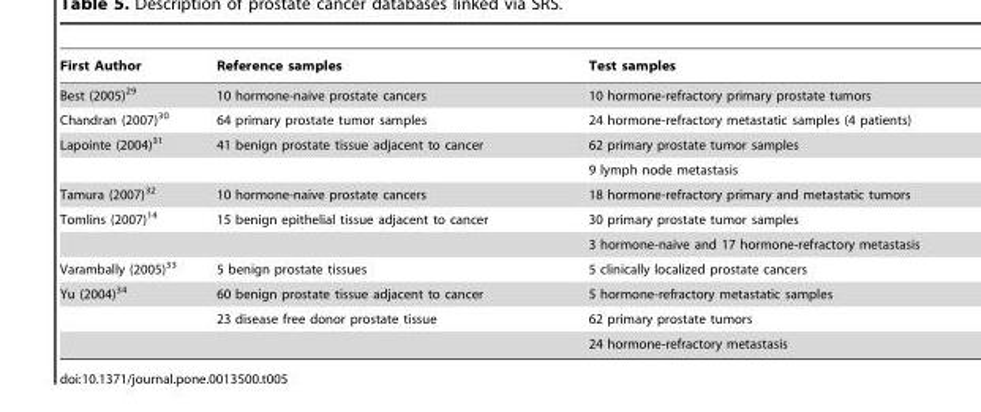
<table><thead><tr><td>First Author</td><td>Reference samples</td><td>Test samples</td></tr></thead><tbody><tr><td>Best (2005)<sup>29</sup></td><td>10 hormone-naive prostate cancers</td><td>10 hormone-refractory primary prostate tumors</td></tr><tr><td>Chandran (2007)<sup>30</sup></td><td>64 primary prostate tumor samples</td><td>24 hormone-refractory metastatic samples (4 patients)</td></tr><tr><td rowspan="2">Lapointe (2004)<sup>31</sup></td><td>41 benign prostate tissue adjacent to cancer</td><td>62 primary prostate tumor samples</td></tr><tr><td></td><td>9 lymph node metastasis</td></tr><tr><td>Tamura (2007)<sup>32</sup></td><td>10 hormone-naive prostate cancers</td><td>18 hormone-refractory primary and metastatic tumors</td></tr><tr><td rowspan="2">Tomlins (2007)<sup>14</sup></td><td>15 benign epithelial tissue adjacent to cancer</td><td>30 primary prostate tumor samples</td></tr><tr><td></td><td>3 hormone-naive and 17 hormone-refractory metastasis</td></tr><tr><td>Varambally (2005)<sup>33</sup></td><td>5 benign prostate tissues</td><td>5 clinically localized prostate cancers</td></tr><tr><td rowspan="3">Yu (2004)<sup>34</sup></td><td>60 benign prostate tissue adjacent to cancer</td><td>5 hormone-refractory metastatic samples</td></tr><tr><td>23 disease free donor prostate tissue</td><td>62 primary prostate tumors</td></tr><tr><td></td><td>24 hormone-refractory metastasis</td></tr></tbody></table>